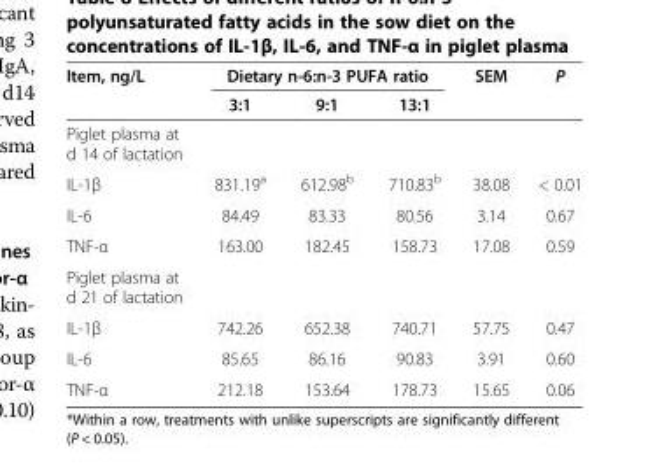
<table><thead><tr><td rowspan="2">Item, ng/L</td><td colspan="3">Dietary n-6:n-3 PUFA ratio</td><td rowspan="2">SEM</td><td rowspan="2">P</td></tr><tr><td>3:1</td><td>9:1</td><td>13:1</td></tr></thead><tbody><tr><td colspan="6">Piglet plasma at d 14 of lactation</td></tr><tr><td>IL-1β</td><td>831.19<sup>a</sup></td><td>612.98<sup>b</sup></td><td>710.83<sup>b</sup></td><td>38.08</td><td>&lt; 0.01</td></tr><tr><td>IL-6</td><td>84.49</td><td>83.33</td><td>80.56</td><td>3.14</td><td>0.67</td></tr><tr><td>TNF-α</td><td>163.00</td><td>182.45</td><td>158.73</td><td>17.08</td><td>0.59</td></tr><tr><td colspan="6">Piglet plasma at d 21 of lactation</td></tr><tr><td>IL-1β</td><td>742.26</td><td>652.38</td><td>740.71</td><td>57.75</td><td>0.47</td></tr><tr><td>IL-6</td><td>85.65</td><td>86.16</td><td>90.83</td><td>3.91</td><td>0.60</td></tr><tr><td>TNF-α</td><td>212.18</td><td>153.64</td><td>178.73</td><td>15.65</td><td>0.06</td></tr></tbody></table>